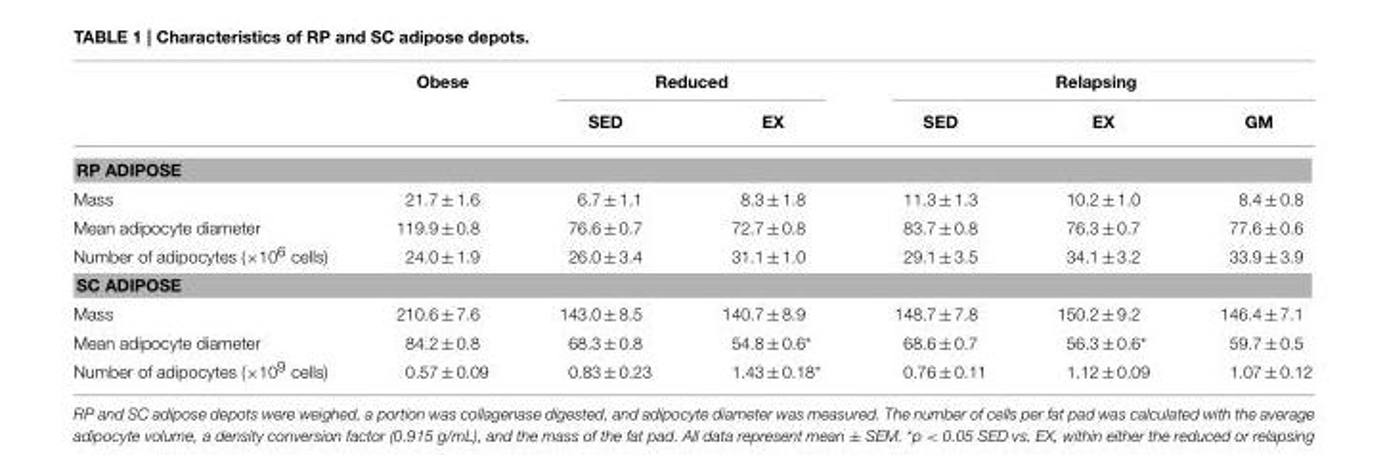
<table><thead><tr><td rowspan="2"></td><td rowspan="2">Obese</td><td colspan="2">Reduced</td><td colspan="3">Relapsing</td></tr><tr><td>SED</td><td>EX</td><td>SED</td><td>EX</td><td>GM</td></tr></thead><tbody><tr><td colspan="7">RP ADIPOSE</td></tr><tr><td>Mass</td><td>21.7 ± 1.6</td><td>6.7 ± 1.1</td><td>8.3 ± 1.8</td><td>11.3 ± 1.3</td><td>10.2 ± 1.0</td><td>8.4 ± 0.8</td></tr><tr><td>Mean adipocyte diameter</td><td>119.9 ± 0.8</td><td>76.6 ± 0.7</td><td>72.7 ± 0.8</td><td>83.7 ± 0.8</td><td>76.3 ± 0.7</td><td>77.6 ± 0.6</td></tr><tr><td>Number of adipocytes (×10<sup>6</sup> cells)</td><td>24.0 ± 1.9</td><td>26.0 ± 3.4</td><td>31.1 ± 1.0</td><td>29.1 ± 3.5</td><td>34.1 ± 3.2</td><td>33.9 ± 3.9</td></tr><tr><td colspan="7">SC ADIPOSE</td></tr><tr><td>Mass</td><td>210.6 ± 7.6</td><td>143.0 ± 8.5</td><td>140.7 ± 8.9</td><td>148.7 ± 7.8</td><td>150.2 ± 9.2</td><td>146.4 ± 7.1</td></tr><tr><td>Mean adipocyte diameter</td><td>84.2 ± 0.8</td><td>68.3 ± 0.8</td><td>54.8 ± 0.6*</td><td>68.6 ± 0.7</td><td>56.3 ± 0.6*</td><td>59.7 ± 0.5</td></tr><tr><td>Number of adipocytes (×10<sup>9</sup> cells)</td><td>0.57 ± 0.09</td><td>0.83 ± 0.23</td><td>1.43 ± 0.18*</td><td>0.76 ± 0.11</td><td>1.12 ± 0.09</td><td>1.07 ± 0.12</td></tr></tbody></table>